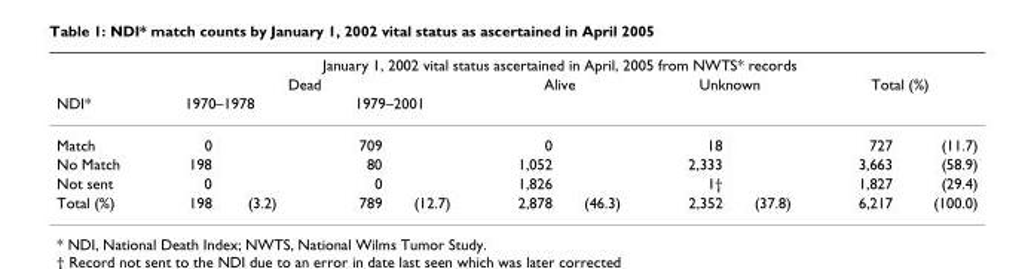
<table><thead><tr><td rowspan="4">NDI* Match</td><td colspan="10">January 1, 2002 vital status ascertained in April, 2005 from NWTS* records</td></tr><tr><td colspan="4">Dead</td><td colspan="2">Alive</td><td colspan="2">Unknown</td><td colspan="2">Total (%)</td></tr><tr><td colspan="2">1970–1978</td><td colspan="2">1979–2001</td><td rowspan="2">0</td><td rowspan="2"></td><td rowspan="2">18</td><td rowspan="2"></td><td rowspan="2">727</td><td rowspan="2">(11.7)</td></tr><tr><td>0</td><td></td><td>709</td><td></td></tr></thead><tbody><tr><td>No Match</td><td>198</td><td></td><td>80</td><td></td><td>1,052</td><td></td><td>2,333</td><td></td><td>3,663</td><td>(58.9)</td></tr><tr><td>Not sent</td><td>0</td><td></td><td>0</td><td></td><td>1,826</td><td></td><td>1†</td><td></td><td>1,827</td><td>(29.4)</td></tr><tr><td>Total (%)</td><td>198</td><td>(3.2)</td><td>789</td><td>(12.7)</td><td>2,878</td><td>(46.3)</td><td>2,352</td><td>(37.8)</td><td>6,217</td><td>(100.0)</td></tr></tbody></table>